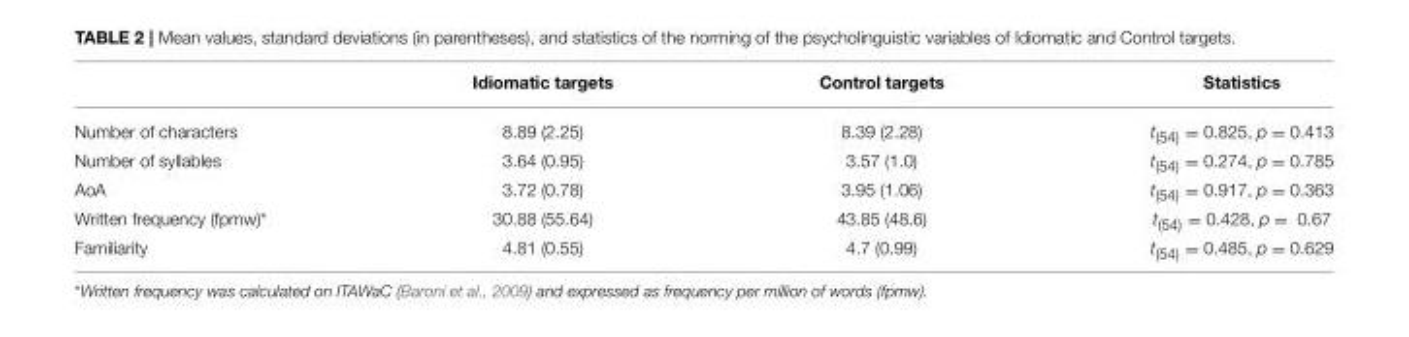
<table><thead><tr><td></td><td>Idiomatic targets</td><td>Control targets</td><td>Statistics</td></tr></thead><tbody><tr><td>Number of characters</td><td>8.89 (2.25)</td><td>8.39 (2.28)</td><td>t<sub>(54)</sub> = 0.825, p = 0.413</td></tr><tr><td>Number of syllables</td><td>3.64 (0.95)</td><td>3.57 (1.0)</td><td>t<sub>(54)</sub> = 0.274, p = 0.785</td></tr><tr><td>AoA</td><td>3.72 (0.78)</td><td>3.95 (1.06)</td><td>t<sub>(54)</sub> = 0.917, p = 0.363</td></tr><tr><td>Written frequency (fpmw)*</td><td>30.88 (55.64)</td><td>43.85 (48.6)</td><td>t<sub>(54)</sub> = 0.428, p = 0.67</td></tr><tr><td>Familiarity</td><td>4.81 (0.55)</td><td>4.7 (0.99)</td><td>t<sub>(54)</sub> = 0.485, p = 0.629</td></tr></tbody></table>